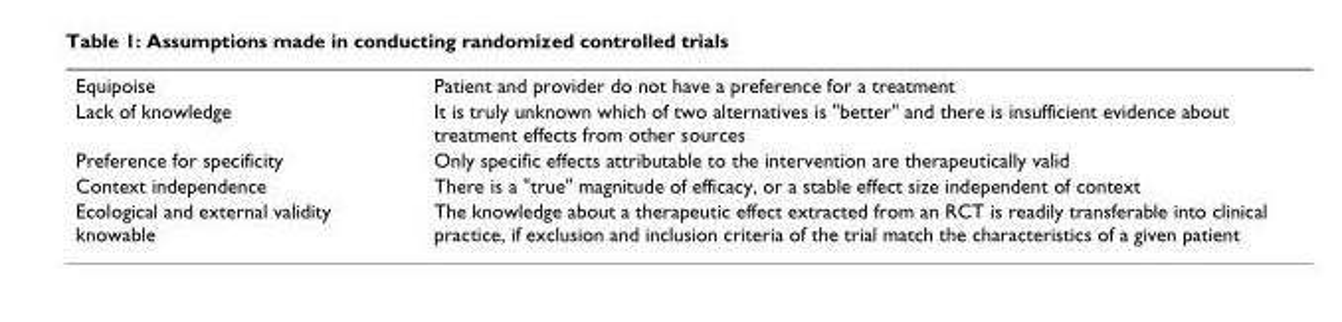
<table><tbody><tr><td>Equipoise</td><td>Patient and provider do not have a preference for a treatment</td></tr><tr><td>Lack of knowledge</td><td>It is truly unknown which of two alternatives is &quot;better&quot; and there is insufficient evidence about treatment effects from other sources</td></tr><tr><td>Preference for specificity</td><td>Only specific effects attributable to the intervention are therapeutically valid</td></tr><tr><td>Context independence</td><td>There is a &quot;true&quot; magnitude of efficacy, or a stable effect size independent of context</td></tr><tr><td>Ecological and external validity knowable</td><td>The knowledge about a therapeutic effect extracted from an RCT is readily transferable into clinical practice, if exclusion and inclusion criteria of the trial match the characteristics of a given patient</td></tr></tbody></table>